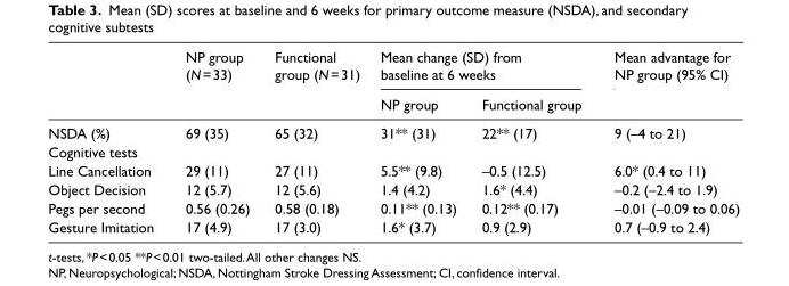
<table><thead><tr><td rowspan="2"></td><td rowspan="2">NP group (N = 33)</td><td rowspan="2">Functional group (N = 31)</td><td colspan="2">Mean change (SD) from baseline at 6 weeks</td><td rowspan="2">Mean advantage for NP group (95% CI)</td></tr><tr><td>NP group</td><td>Functional group</td></tr></thead><tbody><tr><td>NSDA (%)</td><td>69 (35)</td><td>65 (32)</td><td>31** (31)</td><td>22** (17)</td><td>9 (–4 to 21)</td></tr><tr><td colspan="6">Cognitive tests</td></tr><tr><td>Line Cancellation</td><td>29 (11)</td><td>27 (11)</td><td>5.5** (9.8)</td><td>–0.5 (12.5)</td><td>6.0* (0.4 to 11)</td></tr><tr><td>Object Decision</td><td>12 (5.7)</td><td>12 (5.6)</td><td>1.4 (4.2)</td><td>1.6* (4.4)</td><td>–0.2 (–2.4 to 1.9)</td></tr><tr><td>Pegs per second</td><td>0.56 (0.26)</td><td>0.58 (0.18)</td><td>0.11** (0.13)</td><td>0.12** (0.17)</td><td>–0.01 (–0.09 to 0.06)</td></tr><tr><td>Gesture Imitation</td><td>17 (4.9)</td><td>17 (3.0)</td><td>1.6* (3.7)</td><td>0.9 (2.9)</td><td>0.7 (–0.9 to 2.4)</td></tr></tbody></table>